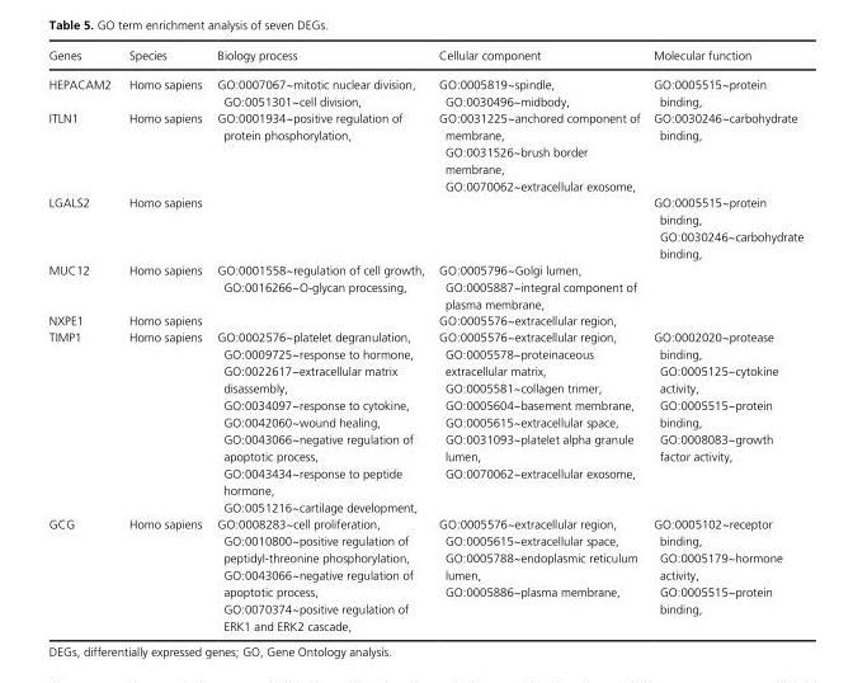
<table><thead><tr><td>Genes</td><td>Species</td><td>Biology process</td><td>Cellular component</td><td>Molecular function</td></tr></thead><tbody><tr><td>HEPACAM2</td><td>Homo sapiens</td><td>GO:0007067~mitotic nuclear division, GO:0051301~cell division,</td><td>GO:0005819~spindle, GO:0030496~midbody,</td><td>GO:0005515~protein binding,</td></tr><tr><td>ITLN1</td><td>Homo sapiens</td><td>GO:0001934~positive regulation of protein phosphorylation,</td><td>GO:0031225~anchored component of membrane, GO:0031526~brush border membrane, GO:0070062~extracellular exosome,</td><td>GO:0030246~carbohydrate binding,</td></tr><tr><td>LGALS2</td><td>Homo sapiens</td><td></td><td></td><td>GO:0005515~protein binding, GO:0030246~carbohydrate binding,</td></tr><tr><td>MUC12</td><td>Homo sapiens</td><td>GO:0001558~regulation of cell growth, GO:0016266~O- glycan processing,</td><td>GO:0005796~Golgi lumen, GO:0005887~integral component of plasma membrane,</td><td></td></tr><tr><td>NXPE1</td><td>Homo sapiens</td><td></td><td>GO:0005576~extracellular region,</td><td></td></tr><tr><td>TIMP1</td><td>Homo sapiens</td><td>GO:0002576~platelet degranulation, GO:0009725~response to hormone, GO:0022617~extracellular matrix disassembly, GO:0034097~response to cytokine, GO:0042060~wound healing, GO:0043066~negative regulation of apoptotic process, GO:0043434~response to peptide hormone, GO:0051216~cartilage development,</td><td>GO:0005576~extracellular region, GO:0005578~proteinaceous extracellular matrix, GO:0005581~collagen trimer, GO:0005604~basement membrane, GO:0005615~extracellular space, GO:0031093~platelet alpha granule lumen, GO:0070062~extracellular exosome,</td><td>GO:0002020~protease binding, GO:0005125~cytokine activity, GO:0005515~protein binding, GO:0008083~growth factor activity,</td></tr><tr><td>GCG</td><td>Homo sapiens</td><td>GO:0008283~cell proliferation, GO:0010800~positive regulation of peptidyl- threonine phosphorylation, GO:0043066~negative regulation of apoptotic process, GO:0070374~positive regulation of ERK1 and ERK2 cascade,</td><td>GO:0005576~extracellular region, GO:0005615~extracellular space, GO:0005788~endoplasmic reticulum lumen, GO:0005886~plasma membrane,</td><td>GO:0005102~receptor binding, GO:0005179~hormone activity, GO:0005515~protein binding,</td></tr></tbody></table>